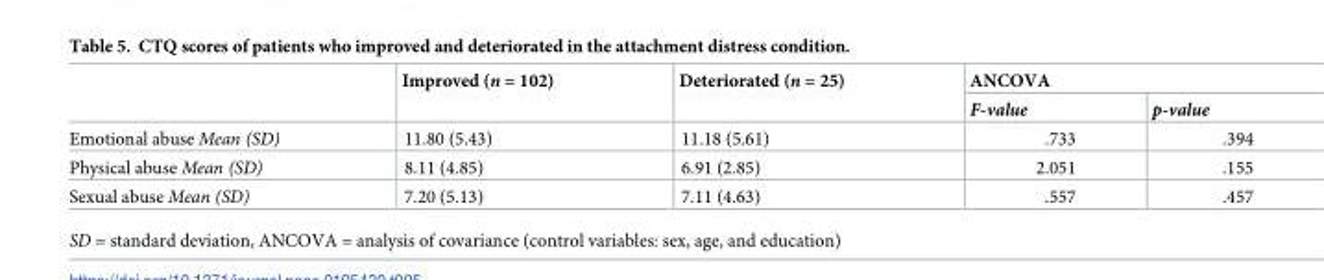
<table><thead><tr><td rowspan="2"></td><td rowspan="2">Improved (n = 102)</td><td rowspan="2">Deteriorated (n = 25)</td><td colspan="2">ANCOVA</td></tr><tr><td>F-value</td><td>p-value</td></tr></thead><tbody><tr><td>Emotional abuse Mean (SD)</td><td>11.80 (5.43)</td><td>11.18 (5.61)</td><td>.733</td><td>.394</td></tr><tr><td>Physical abuse Mean (SD)</td><td>8.11 (4.85)</td><td>6.91 (2.85)</td><td>2.051</td><td>.155</td></tr><tr><td>Sexual abuse Mean (SD)</td><td>7.20 (5.13)</td><td>7.11 (4.63)</td><td>.557</td><td>.457</td></tr></tbody></table>